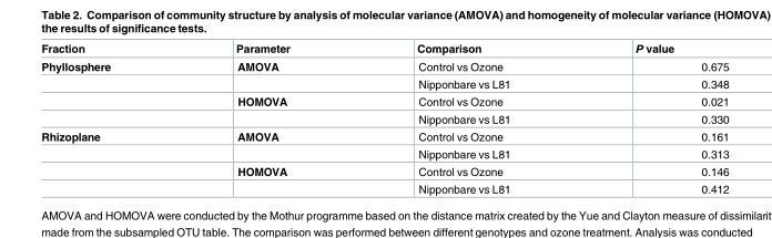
<table><thead><tr><td>Fraction</td><td>Parameter</td><td>Comparison</td><td>P value</td></tr></thead><tbody><tr><td rowspan="4">Phyllosphere</td><td>AMOVA</td><td>Control vs Ozone</td><td>0.675</td></tr><tr><td></td><td>Nipponbare vs L81</td><td>0.348</td></tr><tr><td>HOMOVA</td><td>Control vs Ozone</td><td>0.021</td></tr><tr><td></td><td>Nipponbare vs L81</td><td>0.330</td></tr><tr><td rowspan="4">Rhizoplane</td><td>AMOVA</td><td>Control vs Ozone</td><td>0.161</td></tr><tr><td></td><td>Nipponbare vs L81</td><td>0.313</td></tr><tr><td>HOMOVA</td><td>Control vs Ozone</td><td>0.146</td></tr><tr><td></td><td>Nipponbare vs L81</td><td>0.412</td></tr></tbody></table>